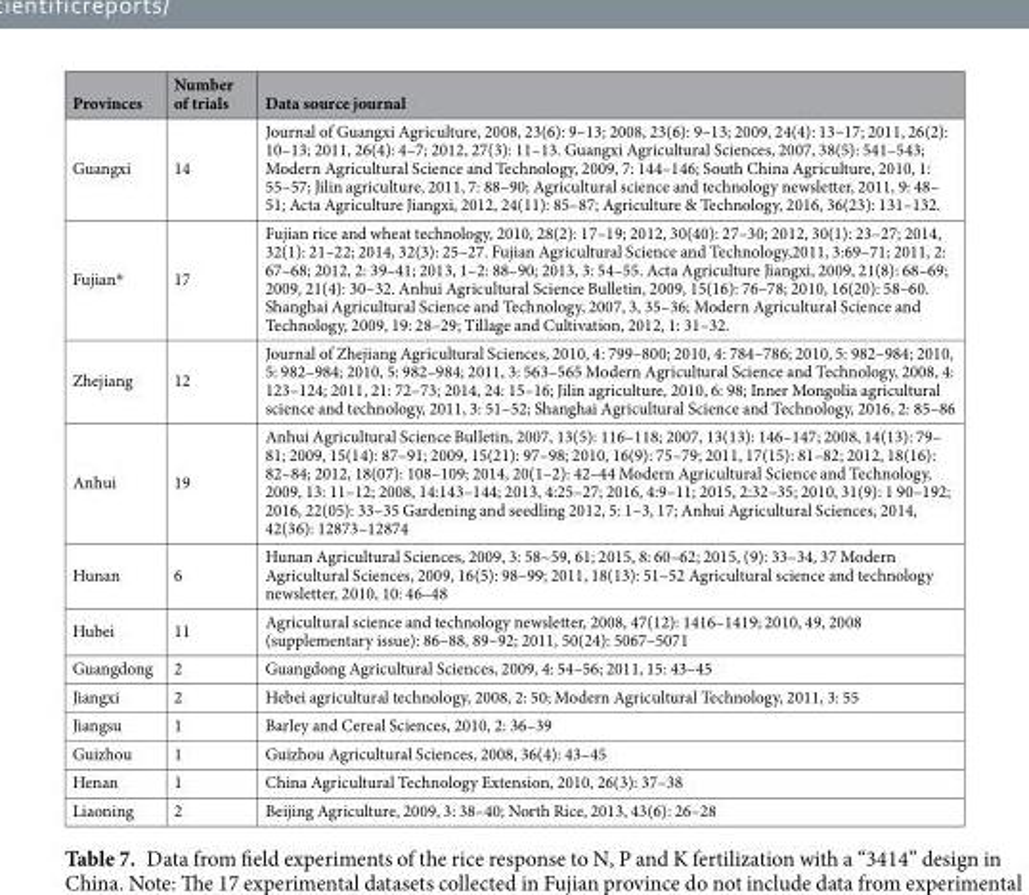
<table><thead><tr><td>Provinces</td><td>Number of trials</td><td>Data source journal</td></tr></thead><tbody><tr><td>Guangxi</td><td>14</td><td>Journal of Guangxi Agriculture, 2008, 23(6): 9–13; 2008, 23(6): 9–13; 2009, 24(4): 13–17; 2011, 26(2): 10–13; 2011, 26(4): 4–7; 2012, 27(3): 11–13. Guangxi Agricultural Sciences, 2007, 38(5): 541–543; Modern Agricultural Science and Technology, 2009, 7: 144–146; South China Agriculture, 2010, 1: 55–57; Jilin agriculture, 2011, 7: 88–90; Agricultural science and technology newsletter, 2011, 9: 48– 51; Acta Agriculture Jiangxi, 2012, 24(11): 85–87; Agriculture &amp; Technology, 2016, 36(23): 131–132.</td></tr><tr><td>Fujian*</td><td>17</td><td>Fujian rice and wheat technology, 2010, 28(2): 17–19; 2012, 30(40): 27–30; 2012, 30(1): 23–27; 2014, 32(1): 21–22; 2014, 32(3): 25–27. Fujian Agricultural Science and Technology,2011, 3:69–71; 2011, 2: 67–68; 2012, 2: 39–41; 2013, 1–2: 88–90; 2013, 3: 54–55. Acta Agriculture Jiangxi, 2009, 21(8): 68–69; 2009, 21(4): 30–32. Anhui Agricultural Science Bulletin, 2009, 15(16): 76–78; 2010, 16(20): 58–60. Shanghai Agricultural Science and Technology, 2007, 3, 35–36; Modern Agricultural Science and Technology, 2009, 19: 28–29; Tillage and Cultivation, 2012, 1: 31–32.</td></tr><tr><td>Zhejiang</td><td>12</td><td>Journal of Zhejiang Agricultural Sciences, 2010, 4: 799–800; 2010, 4: 784–786; 2010, 5: 982–984; 2010, 5: 982–984; 2010, 5: 982–984; 2011, 3: 563–565 Modern Agricultural Science and Technology, 2008, 4: 123–124; 2011, 21: 72–73; 2014, 24: 15–16; Jilin agriculture, 2010, 6: 98; Inner Mongolia agricultural science and technology, 2011, 3: 51–52; Shanghai Agricultural Science and Technology, 2016, 2: 85–86</td></tr><tr><td>Anhui</td><td>19</td><td>Anhui Agricultural Science Bulletin, 2007, 13(5): 116–118; 2007, 13(13): 146–147; 2008, 14(13): 79– 81; 2009, 15(14): 87–91; 2009, 15(21): 97–98; 2010, 16(9): 75–79; 2011, 17(15): 81–82; 2012, 18(16): 82–84; 2012, 18(07): 108–109; 2014, 20(1–2): 42–44 Modern Agricultural Science and Technology, 2009, 13: 11–12; 2008, 14:143–144; 2013, 4:25–27; 2016, 4:9–11; 2015, 2:32–35; 2010, 31(9): 1 90–192; 2016, 22(05): 33–35 Gardening and seedling 2012, 5: 1–3, 17; Anhui Agricultural Sciences, 2014, 42(36): 12873–12874</td></tr><tr><td>Hunan</td><td>6</td><td>Hunan Agricultural Sciences, 2009, 3: 58~59, 61; 2015, 8: 60–62; 2015, (9): 33–34, 37 Modern Agricultural Sciences, 2009, 16(5): 98–99; 2011, 18(13): 51–52 Agricultural science and technology newsletter, 2010, 10: 46–48</td></tr><tr><td>Hubei</td><td>11</td><td>Agricultural science and technology newsletter, 2008, 47(12): 1416–1419; 2010, 49, 2008 (supplementary issue): 86–88, 89–92; 2011, 50(24): 5067–5071</td></tr><tr><td>Guangdong</td><td>2</td><td>Guangdong Agricultural Sciences, 2009, 4: 54–56; 2011, 15: 43–45</td></tr><tr><td>Jiangxi</td><td>2</td><td>Hebei agricultural technology, 2008, 2: 50; Modern Agricultural Technology, 2011, 3: 55</td></tr><tr><td>Jiangsu</td><td>1</td><td>Barley and Cereal Sciences, 2010, 2: 36–39</td></tr><tr><td>Guizhou</td><td>1</td><td>Guizhou Agricultural Sciences, 2008, 36(4): 43–45</td></tr><tr><td>Henan</td><td>1</td><td>China Agricultural Technology Extension, 2010, 26(3): 37–38</td></tr><tr><td>Liaoning</td><td>2</td><td>Beijing Agriculture, 2009, 3: 38–40; North Rice, 2013, 43(6): 26–28</td></tr></tbody></table>